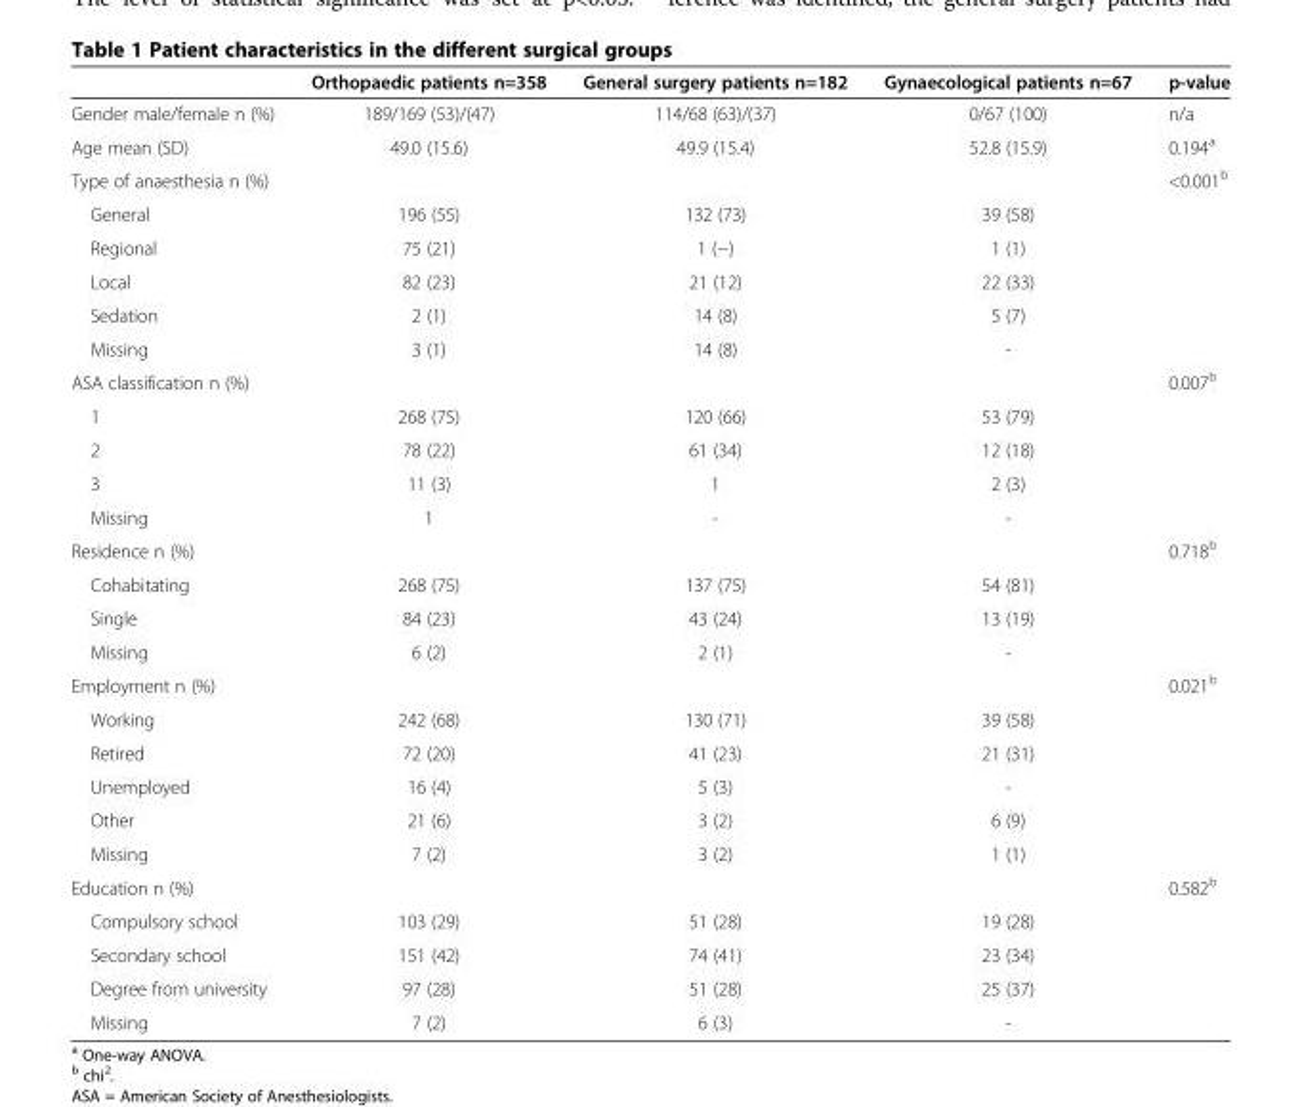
<table><thead><tr><td></td><td>Orthopaedic patients n=358</td><td>General surgery patients n=182</td><td>Gynaecological patients n=67</td><td>p-value</td></tr></thead><tbody><tr><td>Gender male/female n (%)</td><td>189/169 (53)/(47)</td><td>114/68 (63)/(37)</td><td>0/67 (100)</td><td>n/a</td></tr><tr><td>Age mean (SD)</td><td>49.0 (15.6)</td><td>49.9 (15.4)</td><td>52.8 (15.9)</td><td>0.194<sup>a</sup></td></tr><tr><td>Type of anaesthesia n (%)</td><td></td><td></td><td></td><td>&lt;0.001<sup>b</sup></td></tr><tr><td>General</td><td>196 (55)</td><td>132 (73)</td><td>39 (58)</td><td></td></tr><tr><td>Regional</td><td>75 (21)</td><td>1 (−)</td><td>1 (1)</td><td></td></tr><tr><td>Local</td><td>82 (23)</td><td>21 (12)</td><td>22 (33)</td><td></td></tr><tr><td>Sedation</td><td>2 (1)</td><td>14 (8)</td><td>5 (7)</td><td></td></tr><tr><td>Missing</td><td>3 (1)</td><td>14 (8)</td><td>-</td><td></td></tr><tr><td>ASA classification n (%)</td><td></td><td></td><td></td><td>0.007<sup>b</sup></td></tr><tr><td>1</td><td>268 (75)</td><td>120 (66)</td><td>53 (79)</td><td></td></tr><tr><td>2</td><td>78 (22)</td><td>61 (34)</td><td>12 (18)</td><td></td></tr><tr><td>3</td><td>11 (3)</td><td>1</td><td>2 (3)</td><td></td></tr><tr><td>Missing</td><td>1</td><td>-</td><td>-</td><td></td></tr><tr><td>Residence n (%)</td><td></td><td></td><td></td><td>0.718<sup>b</sup></td></tr><tr><td>Cohabitating</td><td>268 (75)</td><td>137 (75)</td><td>54 (81)</td><td></td></tr><tr><td>Single</td><td>84 (23)</td><td>43 (24)</td><td>13 (19)</td><td></td></tr><tr><td>Missing</td><td>6 (2)</td><td>2 (1)</td><td>-</td><td></td></tr><tr><td>Employment n (%)</td><td></td><td></td><td></td><td>0.021<sup>b</sup></td></tr><tr><td>Working</td><td>242 (68)</td><td>130 (71)</td><td>39 (58)</td><td></td></tr><tr><td>Retired</td><td>72 (20)</td><td>41 (23)</td><td>21 (31)</td><td></td></tr><tr><td>Unemployed</td><td>16 (4)</td><td>5 (3)</td><td>-</td><td></td></tr><tr><td>Other</td><td>21 (6)</td><td>3 (2)</td><td>6 (9)</td><td></td></tr><tr><td>Missing</td><td>7 (2)</td><td>3 (2)</td><td>1 (1)</td><td></td></tr><tr><td>Education n (%)</td><td></td><td></td><td></td><td>0.582<sup>b</sup></td></tr><tr><td>Compulsory school</td><td>103 (29)</td><td>51 (28)</td><td>19 (28)</td><td></td></tr><tr><td>Secondary school</td><td>151 (42)</td><td>74 (41)</td><td>23 (34)</td><td></td></tr><tr><td>Degree from university</td><td>97 (28)</td><td>51 (28)</td><td>25 (37)</td><td></td></tr><tr><td>Missing</td><td>7 (2)</td><td>6 (3)</td><td>-</td><td></td></tr></tbody></table>